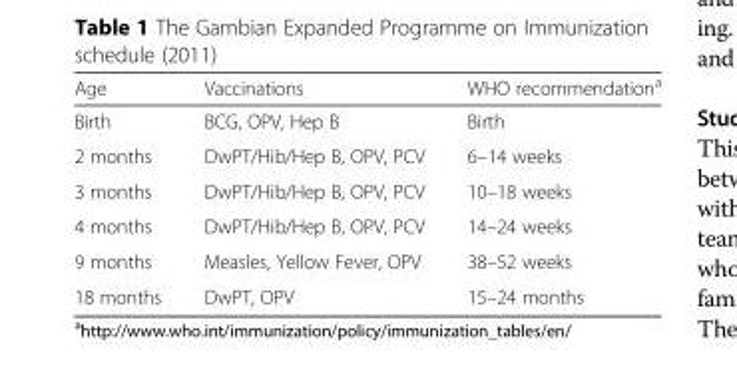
<table><thead><tr><td>Age</td><td>Vaccinations</td><td>WHO recommendation<sup>a</sup></td></tr></thead><tbody><tr><td>Birth</td><td>BCG, OPV, Hep B</td><td>Birth</td></tr><tr><td>2 months</td><td>DwPT/Hib/Hep B, OPV, PCV</td><td>6–14 weeks</td></tr><tr><td>3 months</td><td>DwPT/Hib/Hep B, OPV, PCV</td><td>10–18 weeks</td></tr><tr><td>4 months</td><td>DwPT/Hib/Hep B, OPV, PCV</td><td>14–24 weeks</td></tr><tr><td>9 months</td><td>Measles, Yellow Fever, OPV</td><td>38–52 weeks</td></tr><tr><td>18 months</td><td>DwPT, OPV</td><td>15–24 months</td></tr></tbody></table>